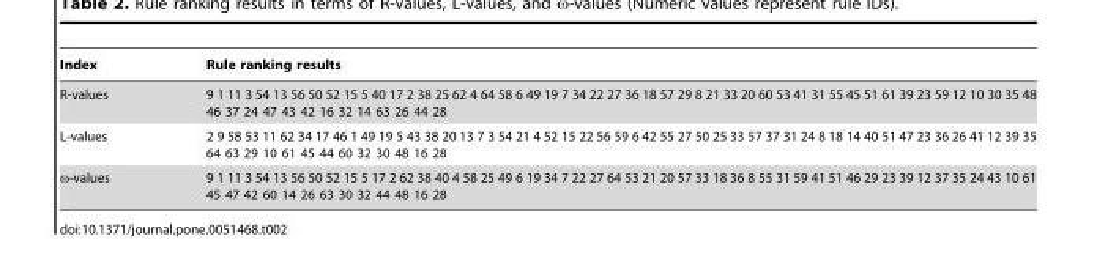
<table><thead><tr><td>Index</td><td>Rule ranking results</td></tr></thead><tbody><tr><td>R-values</td><td>9 1 11 3 54 13 56 50 52 15 5 40 17 2 38 25 62 4 64 58 6 49 19 7 34 22 27 36 18 57 29 8 21 33 20 60 53 41 31 55 45 51 61 39 23 59 12 10 30 35 48 46 37 24 47 43 42 16 32 14 63 26 44 28</td></tr><tr><td>L-values</td><td>2 9 58 53 11 62 34 17 46 1 49 19 5 43 38 20 13 7 3 54 21 4 52 15 22 56 59 6 42 55 27 50 25 33 57 37 31 24 8 18 14 40 51 47 23 36 26 41 12 39 35 64 63 29 10 61 45 44 60 32 30 48 16 28</td></tr><tr><td>ω-values</td><td>9 1 11 3 54 13 56 50 52 15 5 17 2 62 38 40 4 58 25 49 6 19 34 7 22 27 64 53 21 20 57 33 18 36 8 55 31 59 41 51 46 29 23 39 12 37 35 24 43 10 61 45 47 42 60 14 26 63 30 32 44 48 16 28</td></tr></tbody></table>